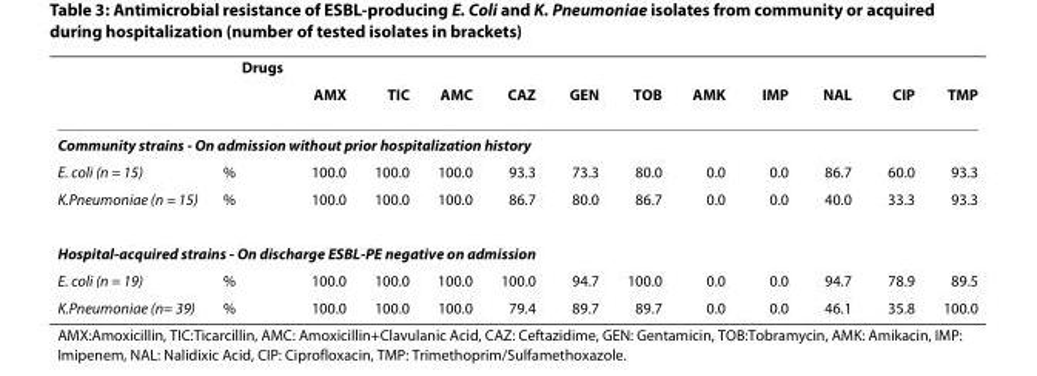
<table><thead><tr><td rowspan="2"></td><td rowspan="2">Drugs</td><td rowspan="2">AMX</td><td rowspan="2">TIC</td><td rowspan="2">AMC</td><td rowspan="2">CAZ</td><td rowspan="2">GEN</td><td rowspan="2">TOB</td><td rowspan="2">AMK</td><td rowspan="2">IMP</td><td rowspan="2">NAL</td><td rowspan="2">CIP</td><td rowspan="2">TMP</td></tr><tr></tr></thead><tbody><tr><td colspan="13">Community strains - On admission without prior hospitalization history</td></tr><tr><td>E. coli (n = 15)</td><td>%</td><td>100.0</td><td>100.0</td><td>100.0</td><td>93.3</td><td>73.3</td><td>80.0</td><td>0.0</td><td>0.0</td><td>86.7</td><td>60.0</td><td>93.3</td></tr><tr><td>K.Pneumoniae (n = 15)</td><td>%</td><td>100.0</td><td>100.0</td><td>100.0</td><td>86.7</td><td>80.0</td><td>86.7</td><td>0.0</td><td>0.0</td><td>40.0</td><td>33.3</td><td>93.3</td></tr><tr><td colspan="13">Hospital-acquired strains - On discharge ESBL-PE negative on admission</td></tr><tr><td>E. coli (n = 19)</td><td>%</td><td>100.0</td><td>100.0</td><td>100.0</td><td>100.0</td><td>94.7</td><td>100.0</td><td>0.0</td><td>0.0</td><td>94.7</td><td>78.9</td><td>89.5</td></tr><tr><td>K.Pneumoniae (n= 39)</td><td>%</td><td>100.0</td><td>100.0</td><td>100.0</td><td>79.4</td><td>89.7</td><td>89.7</td><td>0.0</td><td>0.0</td><td>46.1</td><td>35.8</td><td>100.0</td></tr></tbody></table>